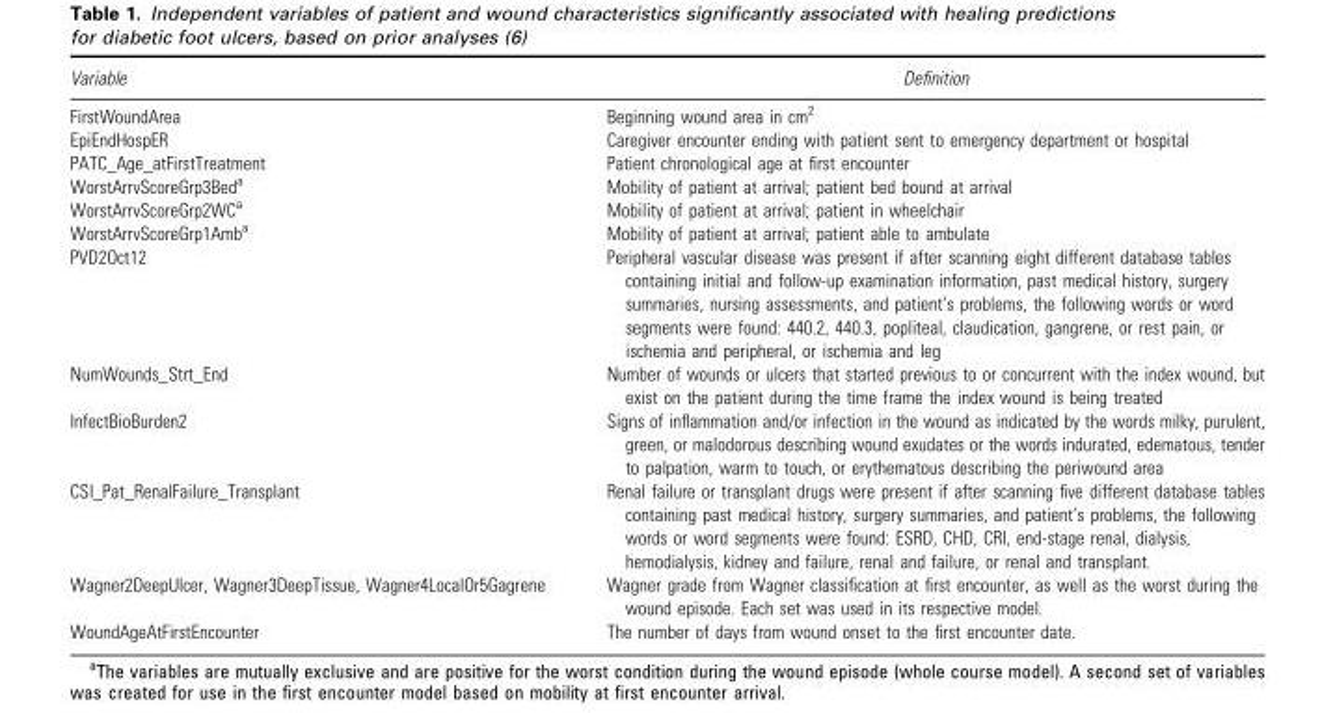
<table><thead><tr><td>Variable</td><td>Definition</td></tr></thead><tbody><tr><td>FirstWoundArea</td><td>Beginning wound area in cm<sup>2</sup></td></tr><tr><td>EpiEndHospER</td><td>Caregiver encounter ending with patient sent to emergency department or hospital</td></tr><tr><td>PATC_Age_atFirstTreatment</td><td>Patient chronological age at first encounter</td></tr><tr><td>WorstArrvScoreGrp3Bed<sup>a</sup></td><td>Mobility of patient at arrival; patient bed bound at arrival</td></tr><tr><td>WorstArrvScoreGrp2WC<sup>a</sup></td><td>Mobility of patient at arrival; patient in wheelchair</td></tr><tr><td>WorstArrvScoreGrp1Amb<sup>a</sup></td><td>Mobility of patient at arrival; patient able to ambulate</td></tr><tr><td>PVD2Oct12</td><td>Peripheral vascular disease was present if after scanning eight different database tables containing initial and follow-up examination information, past medical history, surgery summaries, nursing assessments, and patient’s problems, the following words or word segments were found: 440.2, 440.3, popliteal, claudication, gangrene, or rest pain, or ischemia and peripheral, or ischemia and leg</td></tr><tr><td>NumWounds_Strt_End</td><td>Number of wounds or ulcers that started previous to or concurrent with the index wound, but exist on the patient during the time frame the index wound is being treated</td></tr><tr><td>InfectBioBurden2</td><td>Signs of inflammation and/or infection in the wound as indicated by the words milky, purulent, green, or malodorous describing wound exudates or the words indurated, edematous, tender to palpation, warm to touch, or erythematous describing the periwound area</td></tr><tr><td>CSI_Pat_RenalFailure_Transplant</td><td>Renal failure or transplant drugs were present if after scanning five different database tables containing past medical history, surgery summaries, and patient’s problems, the following words or word segments were found: ESRD, CHD, CRI, end-stage renal, dialysis, hemodialysis, kidney and failure, renal and failure, or renal and transplant.</td></tr><tr><td>Wagner2DeepUlcer, Wagner3DeepTissue, Wagner4LocalOr5Gagrene</td><td>Wagner grade from Wagner classification at first encounter, as well as the worst during the wound episode. Each set was used in its respective model.</td></tr><tr><td>WoundAgeAtFirstEncounter</td><td>The number of days from wound onset to the first encounter date.</td></tr></tbody></table>